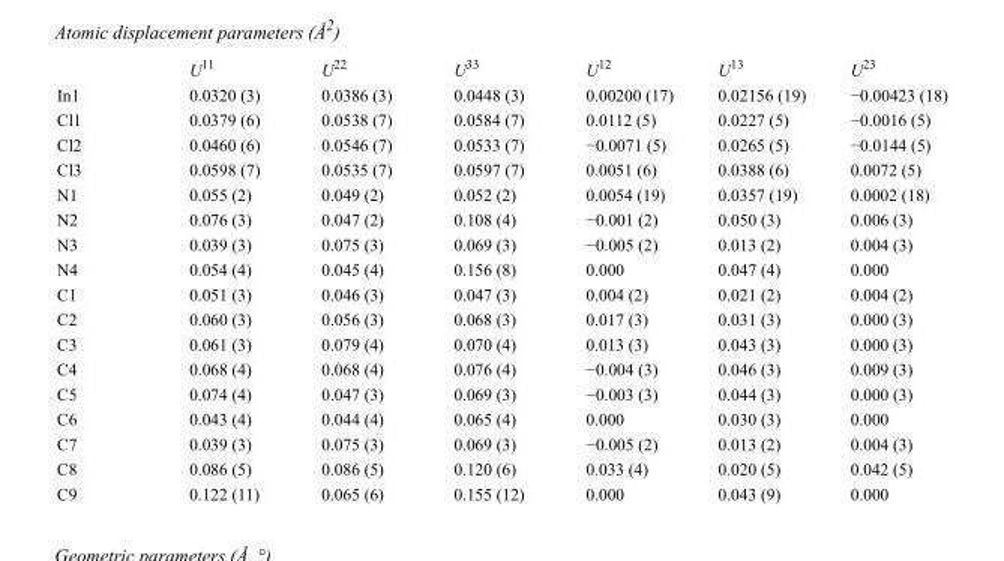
<table><thead><tr><td></td><td>U<sup>11</sup></td><td>U<sup>22</sup></td><td>U<sup>33</sup></td><td>U<sup>12</sup></td><td>U<sup>13</sup></td><td>U<sup>23</sup></td></tr></thead><tbody><tr><td>In1</td><td>0.0320 (3)</td><td>0.0386 (3)</td><td>0.0448 (3)</td><td>0.00200 (17)</td><td>0.02156 (19)</td><td>−0.00423 (18)</td></tr><tr><td>Cl1</td><td>0.0379 (6)</td><td>0.0538 (7)</td><td>0.0584 (7)</td><td>0.0112 (5)</td><td>0.0227 (5)</td><td>−0.0016 (5)</td></tr><tr><td>Cl2</td><td>0.0460 (6)</td><td>0.0546 (7)</td><td>0.0533 (7)</td><td>−0.0071 (5)</td><td>0.0265 (5)</td><td>−0.0144 (5)</td></tr><tr><td>Cl3</td><td>0.0598 (7)</td><td>0.0535 (7)</td><td>0.0597 (7)</td><td>0.0051 (6)</td><td>0.0388 (6)</td><td>0.0072 (5)</td></tr><tr><td>N1</td><td>0.055 (2)</td><td>0.049 (2)</td><td>0.052 (2)</td><td>0.0054 (19)</td><td>0.0357 (19)</td><td>0.0002 (18)</td></tr><tr><td>N2</td><td>0.076 (3)</td><td>0.047 (2)</td><td>0.108 (4)</td><td>−0.001 (2)</td><td>0.050 (3)</td><td>0.006 (3)</td></tr><tr><td>N3</td><td>0.039 (3)</td><td>0.075 (3)</td><td>0.069 (3)</td><td>−0.005 (2)</td><td>0.013 (2)</td><td>0.004 (3)</td></tr><tr><td>N4</td><td>0.054 (4)</td><td>0.045 (4)</td><td>0.156 (8)</td><td>0.000</td><td>0.047 (4)</td><td>0.000</td></tr><tr><td>C1</td><td>0.051 (3)</td><td>0.046 (3)</td><td>0.047 (3)</td><td>0.004 (2)</td><td>0.021 (2)</td><td>0.004 (2)</td></tr><tr><td>C2</td><td>0.060 (3)</td><td>0.056 (3)</td><td>0.068 (3)</td><td>0.017 (3)</td><td>0.031 (3)</td><td>0.000 (3)</td></tr><tr><td>C3</td><td>0.061 (3)</td><td>0.079 (4)</td><td>0.070 (4)</td><td>0.013 (3)</td><td>0.043 (3)</td><td>0.000 (3)</td></tr><tr><td>C4</td><td>0.068 (4)</td><td>0.068 (4)</td><td>0.076 (4)</td><td>−0.004 (3)</td><td>0.046 (3)</td><td>0.009 (3)</td></tr><tr><td>C5</td><td>0.074 (4)</td><td>0.047 (3)</td><td>0.069 (3)</td><td>−0.003 (3)</td><td>0.044 (3)</td><td>0.000 (3)</td></tr><tr><td>C6</td><td>0.043 (4)</td><td>0.044 (4)</td><td>0.065 (4)</td><td>0.000</td><td>0.030 (3)</td><td>0.000</td></tr><tr><td>C7</td><td>0.039 (3)</td><td>0.075 (3)</td><td>0.069 (3)</td><td>−0.005 (2)</td><td>0.013 (2)</td><td>0.004 (3)</td></tr><tr><td>C8</td><td>0.086 (5)</td><td>0.086 (5)</td><td>0.120 (6)</td><td>0.033 (4)</td><td>0.020 (5)</td><td>0.042 (5)</td></tr><tr><td>C9</td><td>0.122 (11)</td><td>0.065 (6)</td><td>0.155 (12)</td><td>0.000</td><td>0.043 (9)</td><td>0.000</td></tr></tbody></table>